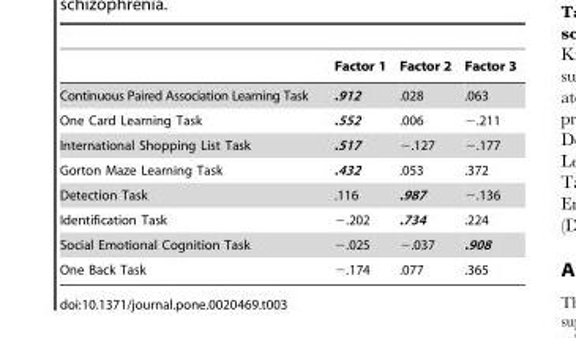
<table><thead><tr><td></td><td>Factor 1</td><td>Factor 2</td><td>Factor 3</td></tr></thead><tbody><tr><td>Continuous Paired Association Learning Task</td><td>.912</td><td>.028</td><td>.063</td></tr><tr><td>One Card Learning Task</td><td>.552</td><td>.006</td><td>−.211</td></tr><tr><td>International Shopping List Task</td><td>.517</td><td>−.127</td><td>−.177</td></tr><tr><td>Gorton Maze Learning Task</td><td>.432</td><td>.053</td><td>.372</td></tr><tr><td>Detection Task</td><td>.116</td><td>.987</td><td>−.136</td></tr><tr><td>Identification Task</td><td>−.202</td><td>.734</td><td>.224</td></tr><tr><td>Social Emotional Cognition Task</td><td>−.025</td><td>−.037</td><td>.908</td></tr><tr><td>One Back Task</td><td>−.174</td><td>.077</td><td>.365</td></tr></tbody></table>